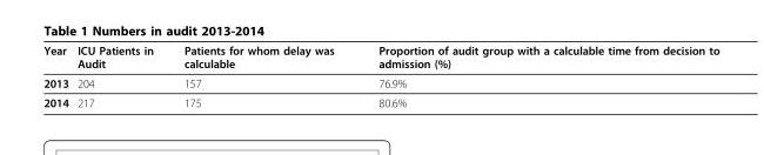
<table><thead><tr><td>Year</td><td>ICU Patients in Audit</td><td>Patients for whom delay was calculable</td><td>Proportion of audit group with a calculable time from decision to admission (%)</td></tr></thead><tbody><tr><td>2013</td><td>204</td><td>157</td><td>76.9%</td></tr><tr><td>2014</td><td>217</td><td>175</td><td>80.6%</td></tr></tbody></table>